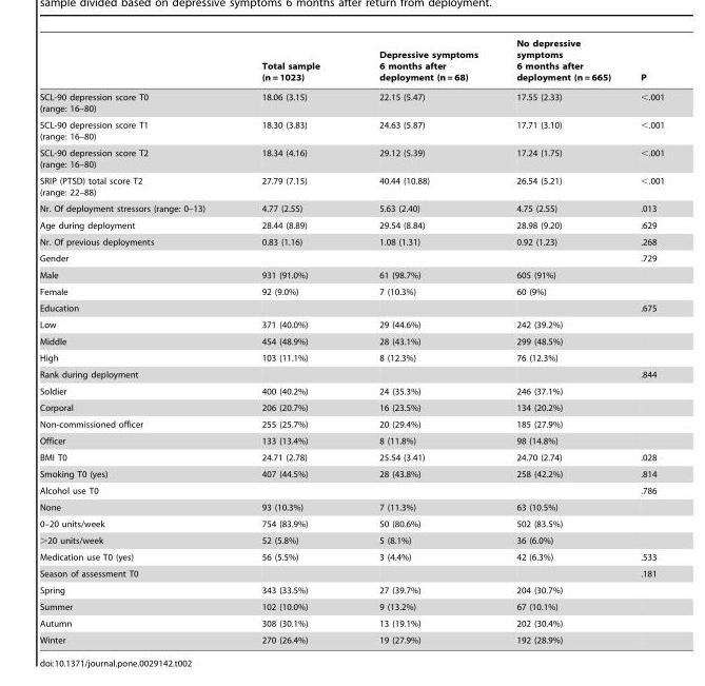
<table><thead><tr><td></td><td>Total sample (n = 1023)</td><td>Depressive symptoms 6 months after deployment (n = 68)</td><td>No depressive symptoms 6 months after deployment (n = 665)</td><td>P</td></tr></thead><tbody><tr><td>SCL-90 depression score T0 (range: 16–80)</td><td>18.06 (3.15)</td><td>22.15 (5.47)</td><td>17.55 (2.33)</td><td>&lt;.001</td></tr><tr><td>SCL-90 depression score T1 (range: 16–80)</td><td>18.30 (3.83)</td><td>24.63 (5.87)</td><td>17.71 (3.10)</td><td>&lt;.001</td></tr><tr><td>SCL-90 depression score T2 (range: 16–80)</td><td>18.34 (4.16)</td><td>29.12 (5.39)</td><td>17.24 (1.75)</td><td>&lt;.001</td></tr><tr><td>SRIP (PTSD) total score T2 (range: 22–88)</td><td>27.79 (7.15)</td><td>40.44 (10.88)</td><td>26.54 (5.21)</td><td>&lt;.001</td></tr><tr><td>Nr. Of deployment stressors (range: 0–13)</td><td>4.77 (2.55)</td><td>5.63 (2.40)</td><td>4.75 (2.55)</td><td>.013</td></tr><tr><td>Age during deployment</td><td>28.44 (8.89)</td><td>29.54 (8.84)</td><td>28.98 (9.20)</td><td>.629</td></tr><tr><td>Nr. Of previous deployments</td><td>0.83 (1.16)</td><td>1.08 (1.31)</td><td>0.92 (1.23)</td><td>.268</td></tr><tr><td>Gender</td><td></td><td></td><td></td><td>.729</td></tr><tr><td>Male</td><td>931 (91.0%)</td><td>61 (98.7%)</td><td>605 (91%)</td><td></td></tr><tr><td>Female</td><td>92 (9.0%)</td><td>7 (10.3%)</td><td>60 (9%)</td><td></td></tr><tr><td>Education</td><td></td><td></td><td></td><td>.675</td></tr><tr><td>Low</td><td>371 (40.0%)</td><td>29 (44.6%)</td><td>242 (39.2%)</td><td></td></tr><tr><td>Middle</td><td>454 (48.9%)</td><td>28 (43.1%)</td><td>299 (48.5%)</td><td></td></tr><tr><td>High</td><td>103 (11.1%)</td><td>8 (12.3%)</td><td>76 (12.3%)</td><td></td></tr><tr><td>Rank during deployment</td><td></td><td></td><td></td><td>.844</td></tr><tr><td>Soldier</td><td>400 (40.2%)</td><td>24 (35.3%)</td><td>246 (37.1%)</td><td></td></tr><tr><td>Corporal</td><td>206 (20.7%)</td><td>16 (23.5%)</td><td>134 (20.2%)</td><td></td></tr><tr><td>Non-commissioned officer</td><td>255 (25.7%)</td><td>20 (29.4%)</td><td>185 (27.9%)</td><td></td></tr><tr><td>Officer</td><td>133 (13.4%)</td><td>8 (11.8%)</td><td>98 (14.8%)</td><td></td></tr><tr><td>BMI T0</td><td>24.71 (2.78)</td><td>25.54 (3.41)</td><td>24.70 (2.74)</td><td>.028</td></tr><tr><td>Smoking T0 (yes)</td><td>407 (44.5%)</td><td>28 (43.8%)</td><td>258 (42.2%)</td><td>.814</td></tr><tr><td>Alcohol use T0</td><td></td><td></td><td></td><td>.786</td></tr><tr><td>None</td><td>93 (10.3%)</td><td>7 (11.3%)</td><td>63 (10.5%)</td><td></td></tr><tr><td>0–20 units/week</td><td>754 (83.9%)</td><td>50 (80.6%)</td><td>502 (83.5%)</td><td></td></tr><tr><td>&gt;20 units/week</td><td>52 (5.8%)</td><td>5 (8.1%)</td><td>36 (6.0%)</td><td></td></tr><tr><td>Medication use T0 (yes)</td><td>56 (5.5%)</td><td>3 (4.4%)</td><td>42 (6.3%)</td><td>.533</td></tr><tr><td>Season of assessment T0</td><td></td><td></td><td></td><td>.181</td></tr><tr><td>Spring</td><td>343 (33.5%)</td><td>27 (39.7%)</td><td>204 (30.7%)</td><td></td></tr><tr><td>Summer</td><td>102 (10.0%)</td><td>9 (13.2%)</td><td>67 (10.1%)</td><td></td></tr><tr><td>Autumn</td><td>308 (30.1%)</td><td>13 (19.1%)</td><td>202 (30.4%)</td><td></td></tr><tr><td>Winter</td><td>270 (26.4%)</td><td>19 (27.9%)</td><td>192 (28.9%)</td><td></td></tr></tbody></table>